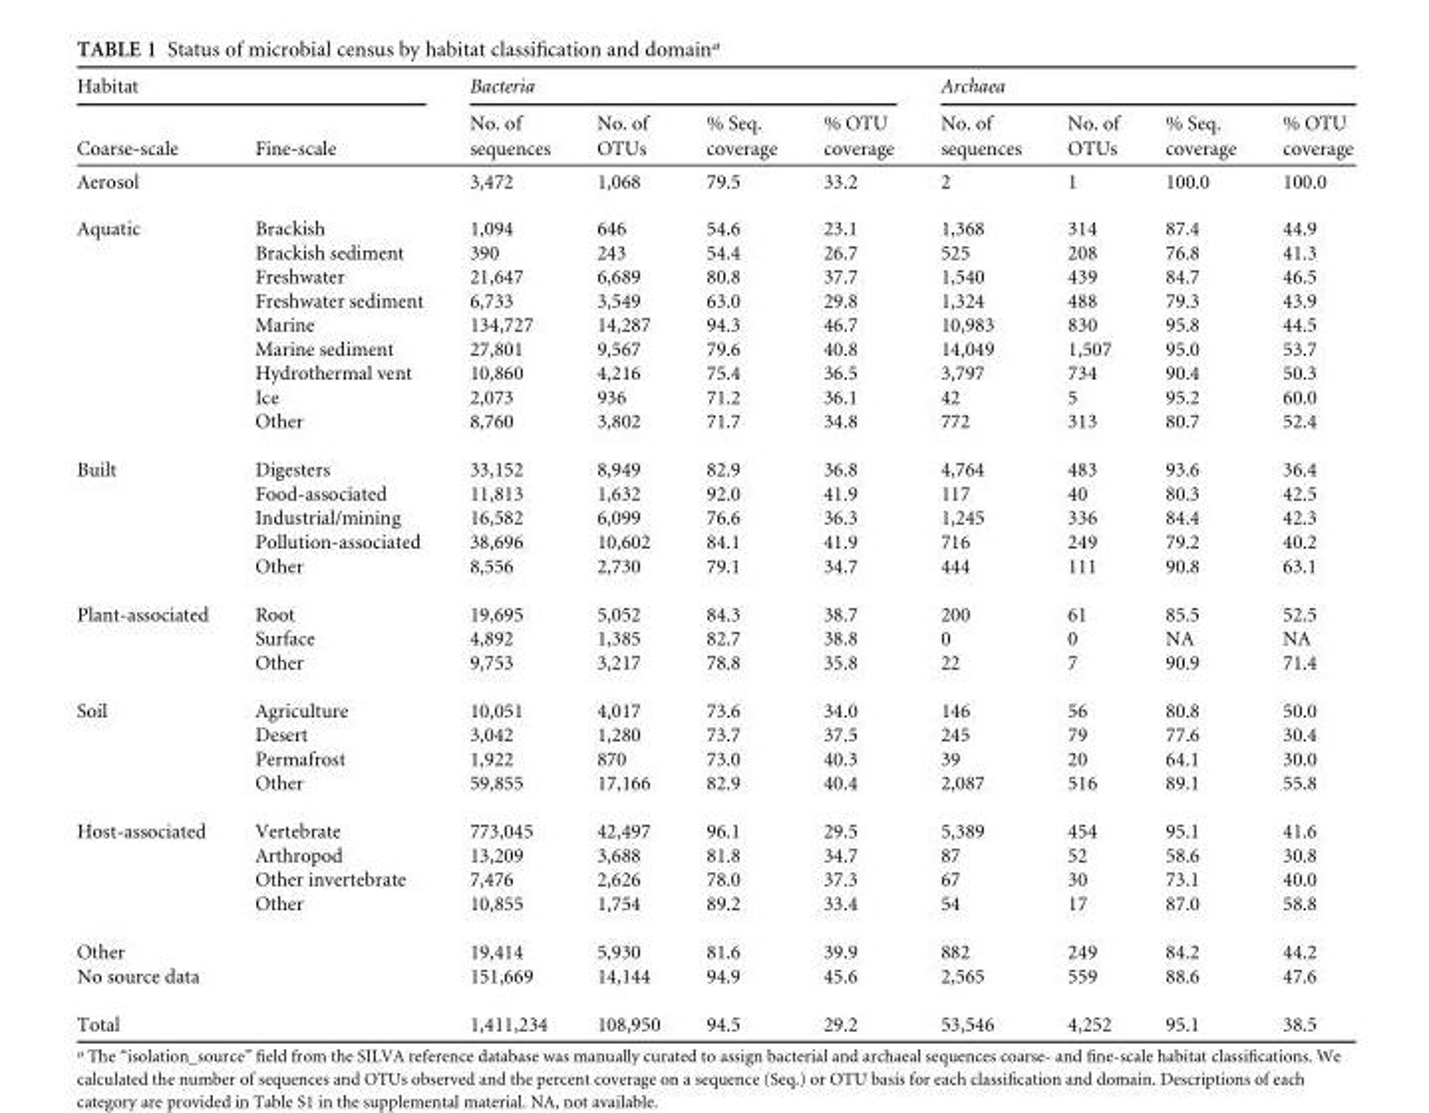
<table><thead><tr><td colspan="2">Habitat</td><td colspan="4">Bacteria</td><td colspan="4">Archaea</td></tr><tr><td>Coarse-scale</td><td>Fine-scale</td><td>No. of sequences</td><td>No. of OTUs</td><td>% Seq. coverage</td><td>% OTU coverage</td><td>No. of sequences</td><td>No. of OTUs</td><td>% Seq. coverage</td><td>% OTU coverage</td></tr></thead><tbody><tr><td>Aerosol</td><td></td><td>3,472</td><td>1,068</td><td>79.5</td><td>33.2</td><td>2</td><td>1</td><td>100.0</td><td>100.0</td></tr><tr><td rowspan="9">Aquatic</td><td>Brackish</td><td>1,094</td><td>646</td><td>54.6</td><td>23.1</td><td>1,368</td><td>314</td><td>87.4</td><td>44.9</td></tr><tr><td>Brackish sediment</td><td>390</td><td>243</td><td>54.4</td><td>26.7</td><td>525</td><td>208</td><td>76.8</td><td>41.3</td></tr><tr><td>Freshwater</td><td>21,647</td><td>6,689</td><td>80.8</td><td>37.7</td><td>1,540</td><td>439</td><td>84.7</td><td>46.5</td></tr><tr><td>Freshwater sediment</td><td>6,733</td><td>3,549</td><td>63.0</td><td>29.8</td><td>1,324</td><td>488</td><td>79.3</td><td>43.9</td></tr><tr><td>Marine</td><td>134,727</td><td>14,287</td><td>94.3</td><td>46.7</td><td>10,983</td><td>830</td><td>95.8</td><td>44.5</td></tr><tr><td>Marine sediment</td><td>27,801</td><td>9,567</td><td>79.6</td><td>40.8</td><td>14,049</td><td>1,507</td><td>95.0</td><td>53.7</td></tr><tr><td>Hydrothermal vent</td><td>10,860</td><td>4,216</td><td>75.4</td><td>36.5</td><td>3,797</td><td>734</td><td>90.4</td><td>50.3</td></tr><tr><td>Ice</td><td>2,073</td><td>936</td><td>71.2</td><td>36.1</td><td>42</td><td>5</td><td>95.2</td><td>60.0</td></tr><tr><td>Other</td><td>8,760</td><td>3,802</td><td>71.7</td><td>34.8</td><td>772</td><td>313</td><td>80.7</td><td>52.4</td></tr><tr><td rowspan="5">Built</td><td>Digesters</td><td>33,152</td><td>8,949</td><td>82.9</td><td>36.8</td><td>4,764</td><td>483</td><td>93.6</td><td>36.4</td></tr><tr><td>Food-associated</td><td>11,813</td><td>1,632</td><td>92.0</td><td>41.9</td><td>117</td><td>40</td><td>80.3</td><td>42.5</td></tr><tr><td>Industrial/mining</td><td>16,582</td><td>6,099</td><td>76.6</td><td>36.3</td><td>1,245</td><td>336</td><td>84.4</td><td>42.3</td></tr><tr><td>Pollution-associated</td><td>38,696</td><td>10,602</td><td>84.1</td><td>41.9</td><td>716</td><td>249</td><td>79.2</td><td>40.2</td></tr><tr><td>Other</td><td>8,556</td><td>2,730</td><td>79.1</td><td>34.7</td><td>444</td><td>111</td><td>90.8</td><td>63.1</td></tr><tr><td rowspan="3">Plant-associated</td><td>Root</td><td>19,695</td><td>5,052</td><td>84.3</td><td>38.7</td><td>200</td><td>61</td><td>85.5</td><td>52.5</td></tr><tr><td>Surface</td><td>4,892</td><td>1,385</td><td>82.7</td><td>38.8</td><td>0</td><td>0</td><td>NA</td><td>NA</td></tr><tr><td>Other</td><td>9,753</td><td>3,217</td><td>78.8</td><td>35.8</td><td>22</td><td>7</td><td>90.9</td><td>71.4</td></tr><tr><td rowspan="4">Soil</td><td>Agriculture</td><td>10,051</td><td>4,017</td><td>73.6</td><td>34.0</td><td>146</td><td>56</td><td>80.8</td><td>50.0</td></tr><tr><td>Desert</td><td>3,042</td><td>1,280</td><td>73.7</td><td>37.5</td><td>245</td><td>79</td><td>77.6</td><td>30.4</td></tr><tr><td>Permafrost</td><td>1,922</td><td>870</td><td>73.0</td><td>40.3</td><td>39</td><td>20</td><td>64.1</td><td>30.0</td></tr><tr><td>Other</td><td>59,855</td><td>17,166</td><td>82.9</td><td>40.4</td><td>2,087</td><td>516</td><td>89.1</td><td>55.8</td></tr><tr><td rowspan="4">Host-associated</td><td>Vertebrate</td><td>773,045</td><td>42,497</td><td>96.1</td><td>29.5</td><td>5,389</td><td>454</td><td>95.1</td><td>41.6</td></tr><tr><td>Arthropod</td><td>13,209</td><td>3,688</td><td>81.8</td><td>34.7</td><td>87</td><td>52</td><td>58.6</td><td>30.8</td></tr><tr><td>Other invertebrate</td><td>7,476</td><td>2,626</td><td>78.0</td><td>37.3</td><td>67</td><td>30</td><td>73.1</td><td>40.0</td></tr><tr><td>Other</td><td>10,855</td><td>1,754</td><td>89.2</td><td>33.4</td><td>54</td><td>17</td><td>87.0</td><td>58.8</td></tr><tr><td>Other</td><td></td><td>19,414</td><td>5,930</td><td>81.6</td><td>39.9</td><td>882</td><td>249</td><td>84.2</td><td>44.2</td></tr><tr><td>No source data</td><td></td><td>151,669</td><td>14,144</td><td>94.9</td><td>45.6</td><td>2,565</td><td>559</td><td>88.6</td><td>47.6</td></tr><tr><td>Total</td><td></td><td>1,411,234</td><td>108,950</td><td>94.5</td><td>29.2</td><td>53,546</td><td>4,252</td><td>95.1</td><td>38.5</td></tr></tbody></table>